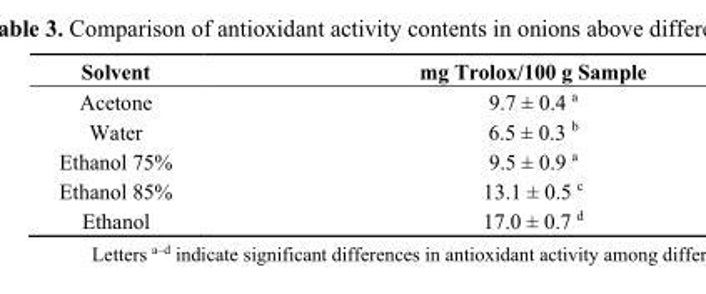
<table><thead><tr><td>Solvent</td><td>mg Trolox/100 g Sample</td></tr></thead><tbody><tr><td>Acetone</td><td>9.7 ± 0.4 <sup>a</sup></td></tr><tr><td>Water</td><td>6.5 ± 0.3 <sup>b</sup></td></tr><tr><td>Ethanol 75%</td><td>9.5 ± 0.9 <sup>a</sup></td></tr><tr><td>Ethanol 85%</td><td>13.1 ± 0.5 <sup>c</sup></td></tr><tr><td>Ethanol</td><td>17.0 ± 0.7 <sup>d</sup></td></tr></tbody></table>